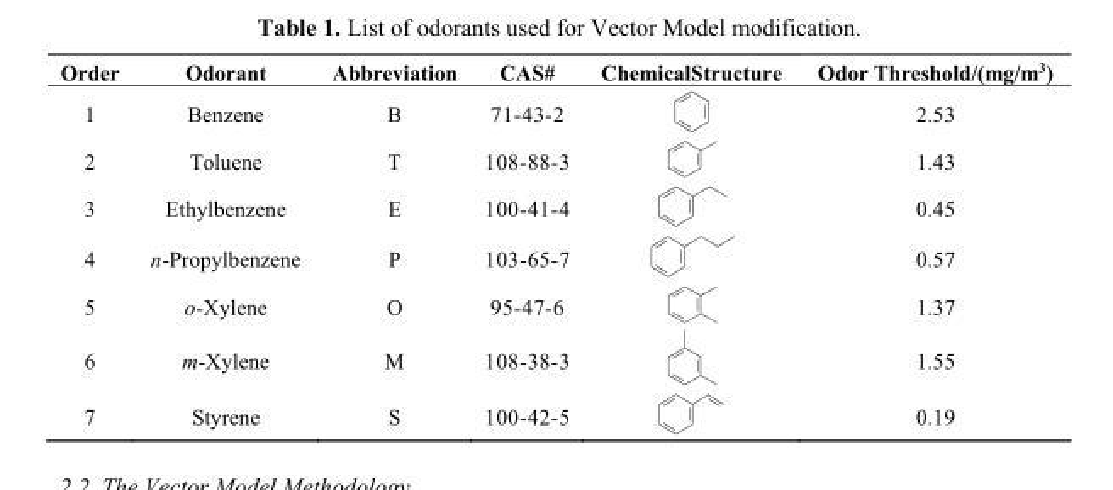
<table><thead><tr><td>Order</td><td>Odorant</td><td>Abbreviation</td><td>CAS#</td><td>ChemicalStructure</td><td>Odor Threshold/(mg/m<sup>3</sup>)</td></tr></thead><tbody><tr><td>1</td><td>Benzene</td><td>B</td><td>71-43-2</td><td></td><td>2.53</td></tr><tr><td>2</td><td>Toluene</td><td>T</td><td>108-88-3</td><td></td><td>1.43</td></tr><tr><td>3</td><td>Ethylbenzene</td><td>E</td><td>100-41-4</td><td></td><td>0.45</td></tr><tr><td>4</td><td>n-Propylbenzene</td><td>P</td><td>103-65-7</td><td></td><td>0.57</td></tr><tr><td>5</td><td>o-Xylene</td><td>O</td><td>95-47-6</td><td></td><td>1.37</td></tr><tr><td>6</td><td>m-Xylene</td><td>M</td><td>108-38-3</td><td></td><td>1.55</td></tr><tr><td>7</td><td>Styrene</td><td>S</td><td>100-42-5</td><td></td><td>0.19</td></tr></tbody></table>